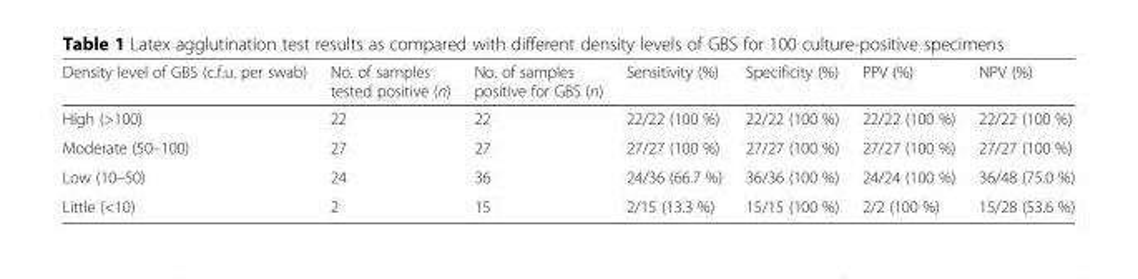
<table><thead><tr><td>Density level of GBS (c.f.u. per swab)</td><td>No. of samples tested positive (n)</td><td>No. of samples positive for GBS (n)</td><td>Sensitivity (%)</td><td>Specificity (%)</td><td>PPV (%)</td><td>NPV (%)</td></tr></thead><tbody><tr><td>High (&gt;100)</td><td>22</td><td>22</td><td>22/22 (100 %)</td><td>22/22 (100 %)</td><td>22/22 (100 %)</td><td>22/22 (100 %)</td></tr><tr><td>Moderate (50–100)</td><td>27</td><td>27</td><td>27/27 (100 %)</td><td>27/27 (100 %)</td><td>27/27 (100 %)</td><td>27/27 (100 %)</td></tr><tr><td>Low (10–50)</td><td>24</td><td>36</td><td>24/36 (66.7 %)</td><td>36/36 (100 %)</td><td>24/24 (100 %)</td><td>36/48 (75.0 %)</td></tr><tr><td>Little (&lt;10)</td><td>2</td><td>15</td><td>2/15 (13.3 %)</td><td>15/15 (100 %)</td><td>2/2 (100 %)</td><td>15/28 (53.6 %)</td></tr></tbody></table>